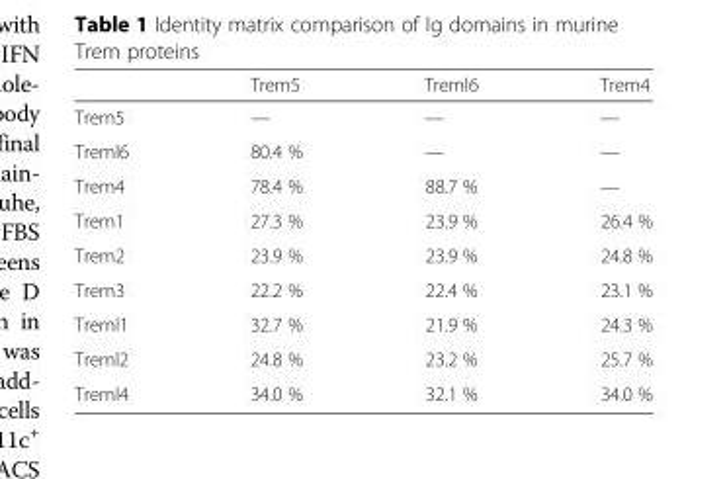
<table><thead><tr><td></td><td>Trem5</td><td>Treml6</td><td>Trem4</td></tr></thead><tbody><tr><td>Trem5</td><td>—</td><td>—</td><td>—</td></tr><tr><td>Treml6</td><td>80.4 %</td><td>—</td><td>—</td></tr><tr><td>Trem4</td><td>78.4 %</td><td>88.7 %</td><td>—</td></tr><tr><td>Trem1</td><td>27.3 %</td><td>23.9 %</td><td>26.4 %</td></tr><tr><td>Trem2</td><td>23.9 %</td><td>23.9 %</td><td>24.8 %</td></tr><tr><td>Trem3</td><td>22.2 %</td><td>22.4 %</td><td>23.1 %</td></tr><tr><td>Treml1</td><td>32.7 %</td><td>21.9 %</td><td>24.3 %</td></tr><tr><td>Treml2</td><td>24.8 %</td><td>23.2 %</td><td>25.7 %</td></tr><tr><td>Treml4</td><td>34.0 %</td><td>32.1 %</td><td>34.0 %</td></tr></tbody></table>